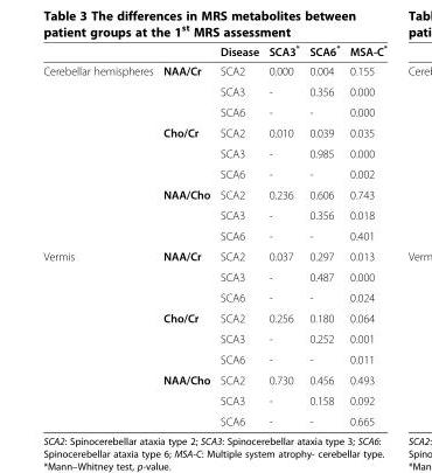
<table><thead><tr><td></td><td></td><td>Disease</td><td>SCA3*</td><td>SCA6*</td><td>MSA-C*</td></tr></thead><tbody><tr><td rowspan="9">Cerebellar hemispheres</td><td>NAA/Cr</td><td>SCA2</td><td>0.000</td><td>0.004</td><td>0.155</td></tr><tr><td></td><td>SCA3</td><td>-</td><td>0.356</td><td>0.000</td></tr><tr><td></td><td>SCA6</td><td>-</td><td>-</td><td>0.000</td></tr><tr><td>Cho/Cr</td><td>SCA2</td><td>0.010</td><td>0.039</td><td>0.035</td></tr><tr><td></td><td>SCA3</td><td>-</td><td>0.985</td><td>0.000</td></tr><tr><td></td><td>SCA6</td><td>-</td><td>-</td><td>0.002</td></tr><tr><td>NAA/Cho</td><td>SCA2</td><td>0.236</td><td>0.606</td><td>0.743</td></tr><tr><td></td><td>SCA3</td><td>-</td><td>0.356</td><td>0.018</td></tr><tr><td></td><td>SCA6</td><td>-</td><td>-</td><td>0.401</td></tr><tr><td rowspan="9">Vermis</td><td>NAA/Cr</td><td>SCA2</td><td>0.037</td><td>0.297</td><td>0.013</td></tr><tr><td></td><td>SCA3</td><td>-</td><td>0.487</td><td>0.000</td></tr><tr><td></td><td>SCA6</td><td>-</td><td>-</td><td>0.024</td></tr><tr><td>Cho/Cr</td><td>SCA2</td><td>0.256</td><td>0.180</td><td>0.064</td></tr><tr><td></td><td>SCA3</td><td>-</td><td>0.252</td><td>0.001</td></tr><tr><td></td><td>SCA6</td><td>-</td><td>-</td><td>0.011</td></tr><tr><td>NAA/Cho</td><td>SCA2</td><td>0.730</td><td>0.456</td><td>0.493</td></tr><tr><td></td><td>SCA3</td><td>-</td><td>0.158</td><td>0.092</td></tr><tr><td></td><td>SCA6</td><td>-</td><td>-</td><td>0.665</td></tr></tbody></table>